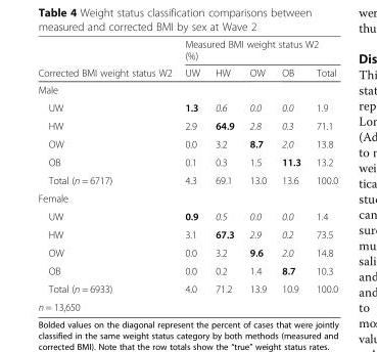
<table><thead><tr><td rowspan="2">Corrected BMI weight status W2</td><td colspan="5">Measured BMI weight status W2 (%)</td></tr><tr><td>UW</td><td>HW</td><td>OW</td><td>OB</td><td>Total</td></tr></thead><tbody><tr><td colspan="6">Male</td></tr><tr><td>UW</td><td>1.3</td><td>0.6</td><td>0.0</td><td>0.0</td><td>1.9</td></tr><tr><td>HW</td><td>2.9</td><td>64.9</td><td>2.8</td><td>0.3</td><td>71.1</td></tr><tr><td>OW</td><td>0.0</td><td>3.2</td><td>8.7</td><td>2.0</td><td>13.8</td></tr><tr><td>OB</td><td>0.1</td><td>0.3</td><td>1.5</td><td>11.3</td><td>13.2</td></tr><tr><td>Total (n = 6717)</td><td>4.3</td><td>69.1</td><td>13.0</td><td>13.6</td><td>100.0</td></tr><tr><td colspan="6">Female</td></tr><tr><td>UW</td><td>0.9</td><td>0.5</td><td>0.0</td><td>0.0</td><td>1.4</td></tr><tr><td>HW</td><td>3.1</td><td>67.3</td><td>2.9</td><td>0.2</td><td>73.5</td></tr><tr><td>OW</td><td>0.0</td><td>3.2</td><td>9.6</td><td>2.0</td><td>14.8</td></tr><tr><td>OB</td><td>0.0</td><td>0.2</td><td>1.4</td><td>8.7</td><td>10.3</td></tr><tr><td>Total (n = 6933)</td><td>4.0</td><td>71.2</td><td>13.9</td><td>10.9</td><td>100.0</td></tr><tr><td>n = 13,650</td><td></td><td></td><td></td><td></td><td></td></tr></tbody></table>